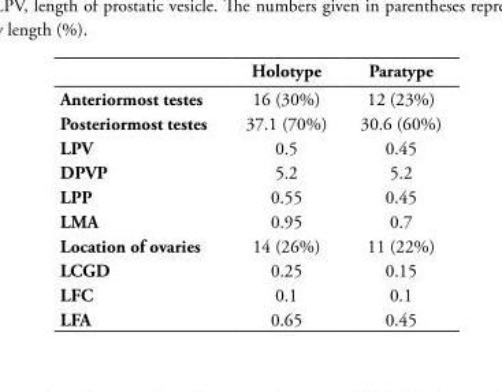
<table><thead><tr><td></td><td>Holotype</td><td>Paratype</td></tr></thead><tbody><tr><td>Anteriormost testes</td><td>16 (30%)</td><td>12 (23%)</td></tr><tr><td>Posteriormost testes</td><td>37.1 (70%)</td><td>30.6 (60%)</td></tr><tr><td>LPV</td><td>0.5</td><td>0.45</td></tr><tr><td>DPVP</td><td>5.2</td><td>5.2</td></tr><tr><td>LPP</td><td>0.55</td><td>0.45</td></tr><tr><td>LMA</td><td>0.95</td><td>0.7</td></tr><tr><td>Location of ovaries</td><td>14 (26%)</td><td>11 (22%)</td></tr><tr><td>LCGD</td><td>0.25</td><td>0.15</td></tr><tr><td>LFC</td><td>0.1</td><td>0.1</td></tr><tr><td>LFA</td><td>0.65</td><td>0.45</td></tr></tbody></table>